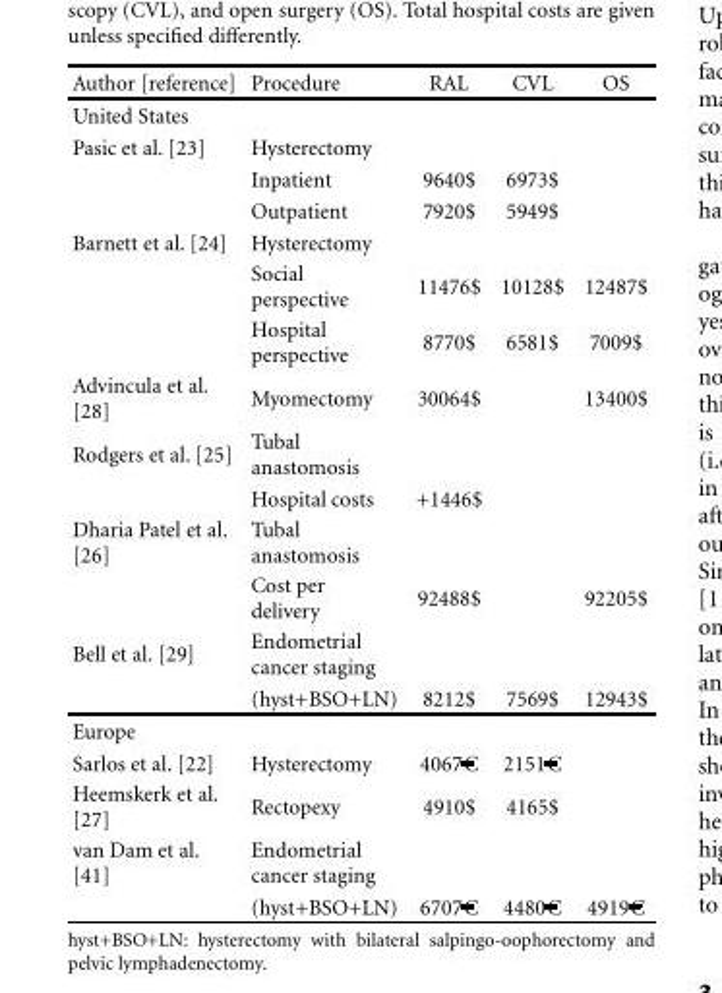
<table><thead><tr><td>Author [reference]</td><td>Procedure</td><td>RAL</td><td>CVL</td><td>OS</td></tr></thead><tbody><tr><td colspan="5">United States</td></tr><tr><td rowspan="3">Pasic et al. [23]</td><td>Hysterectomy</td><td></td><td></td><td></td></tr><tr><td>Inpatient</td><td>9640$</td><td>6973$</td><td></td></tr><tr><td>Outpatient</td><td>7920$</td><td>5949$</td><td></td></tr><tr><td rowspan="3">Barnett et al. [24]</td><td>Hysterectomy</td><td></td><td></td><td></td></tr><tr><td>Social perspective</td><td>11476$</td><td>10128$</td><td>12487$</td></tr><tr><td>Hospital perspective</td><td>8770$</td><td>6581$</td><td>7009$</td></tr><tr><td>Advincula et al. [28]</td><td>Myomectomy</td><td>30064$</td><td></td><td>13400$</td></tr><tr><td rowspan="2">Rodgers et al. [25]</td><td>Tubal anastomosis</td><td></td><td></td><td></td></tr><tr><td>Hospital costs</td><td>+1446$</td><td></td><td></td></tr><tr><td rowspan="2">Dharia Patel et al. [26]</td><td>Tubal anastomosis</td><td></td><td></td><td></td></tr><tr><td>Cost per delivery</td><td>92488$</td><td></td><td>92205$</td></tr><tr><td rowspan="2">Bell et al. [29]</td><td>Endometrial cancer staging</td><td></td><td></td><td></td></tr><tr><td>(hyst+BSO+LN)</td><td>8212$</td><td>7569$</td><td>12943$</td></tr><tr><td colspan="5">Europe</td></tr><tr><td>Sarlos et al. [22]</td><td>Hysterectomy</td><td>4067€</td><td>2151€</td><td></td></tr><tr><td>Heemskerk et al. [27]</td><td>Rectopexy</td><td>4910$</td><td>4165$</td><td></td></tr><tr><td rowspan="2">van Dam et al. [41]</td><td>Endometrial cancer staging</td><td></td><td></td><td></td></tr><tr><td>(hyst+BSO+LN)</td><td>6707€</td><td>4480€</td><td>4919€</td></tr></tbody></table>